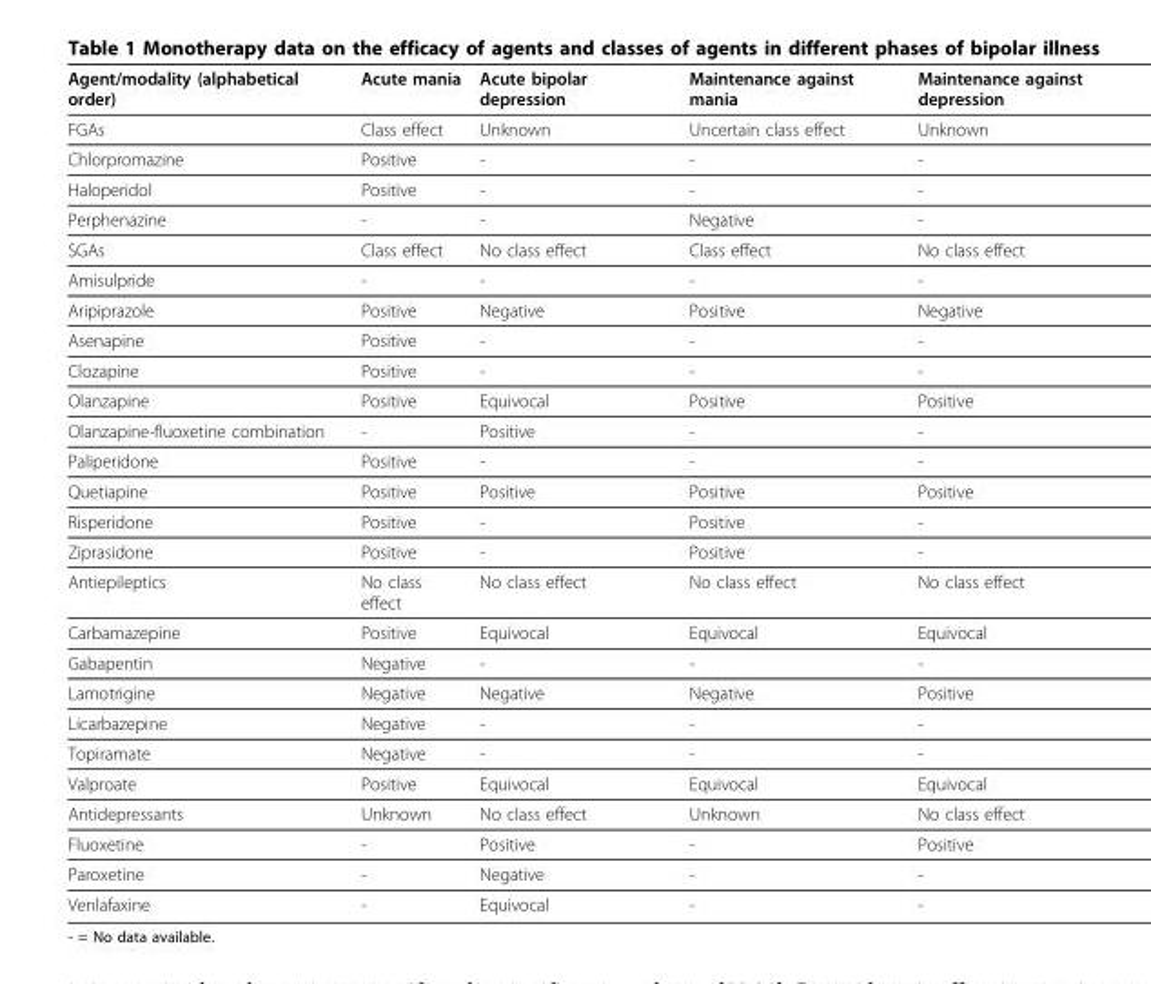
<table><thead><tr><td>Agent/modality (alphabetical order)</td><td>Acute mania</td><td>Acute bipolar depression</td><td>Maintenance against mania</td><td>Maintenance against depression</td></tr></thead><tbody><tr><td>FGAs</td><td>Class effect</td><td>Unknown</td><td>Uncertain class effect</td><td>Unknown</td></tr><tr><td>Chlorpromazine</td><td>Positive</td><td>-</td><td>-</td><td>-</td></tr><tr><td>Haloperidol</td><td>Positive</td><td>-</td><td>-</td><td>-</td></tr><tr><td>Perphenazine</td><td>-</td><td>-</td><td>Negative</td><td>-</td></tr><tr><td>SGAs</td><td>Class effect</td><td>No class effect</td><td>Class effect</td><td>No class effect</td></tr><tr><td>Amisulpride</td><td>-</td><td>-</td><td>-</td><td>-</td></tr><tr><td>Aripiprazole</td><td>Positive</td><td>Negative</td><td>Positive</td><td>Negative</td></tr><tr><td>Asenapine</td><td>Positive</td><td>-</td><td>-</td><td>-</td></tr><tr><td>Clozapine</td><td>Positive</td><td>-</td><td>-</td><td>-</td></tr><tr><td>Olanzapine</td><td>Positive</td><td>Equivocal</td><td>Positive</td><td>Positive</td></tr><tr><td>Olanzapine-fluoxetine combination</td><td>-</td><td>Positive</td><td>-</td><td>-</td></tr><tr><td>Paliperidone</td><td>Positive</td><td>-</td><td>-</td><td>-</td></tr><tr><td>Quetiapine</td><td>Positive</td><td>Positive</td><td>Positive</td><td>Positive</td></tr><tr><td>Risperidone</td><td>Positive</td><td>-</td><td>Positive</td><td>-</td></tr><tr><td>Ziprasidone</td><td>Positive</td><td>-</td><td>Positive</td><td>-</td></tr><tr><td>Antiepileptics</td><td>No class effect</td><td>No class effect</td><td>No class effect</td><td>No class effect</td></tr><tr><td>Carbamazepine</td><td>Positive</td><td>Equivocal</td><td>Equivocal</td><td>Equivocal</td></tr><tr><td>Gabapentin</td><td>Negative</td><td>-</td><td>-</td><td>-</td></tr><tr><td>Lamotrigine</td><td>Negative</td><td>Negative</td><td>Negative</td><td>Positive</td></tr><tr><td>Licarbazepine</td><td>Negative</td><td>-</td><td>-</td><td>-</td></tr><tr><td>Topiramate</td><td>Negative</td><td>-</td><td>-</td><td>-</td></tr><tr><td>Valproate</td><td>Positive</td><td>Equivocal</td><td>Equivocal</td><td>Equivocal</td></tr><tr><td>Antidepressants</td><td>Unknown</td><td>No class effect</td><td>Unknown</td><td>No class effect</td></tr><tr><td>Fluoxetine</td><td>-</td><td>Positive</td><td>-</td><td>Positive</td></tr><tr><td>Paroxetine</td><td>-</td><td>Negative</td><td>-</td><td>-</td></tr><tr><td>Venlafaxine</td><td>-</td><td>Equivocal</td><td>-</td><td>-</td></tr></tbody></table>